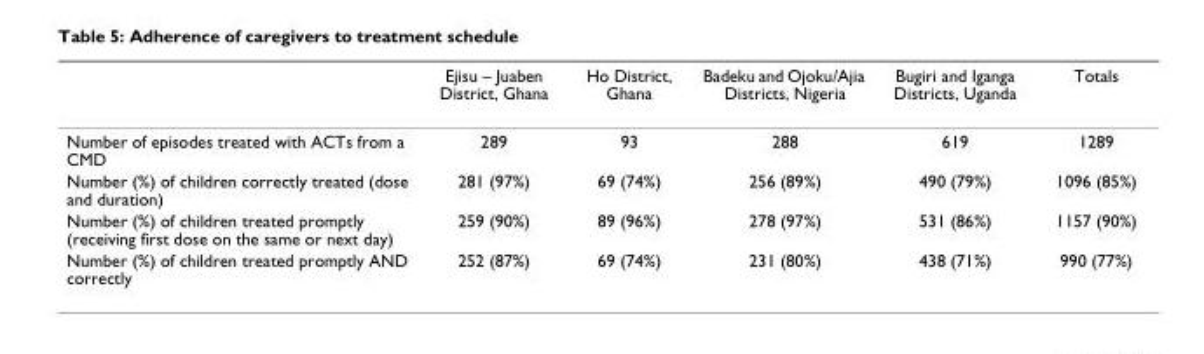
<table><thead><tr><td></td><td>Ejisu – Juaben District, Ghana</td><td>Ho District, Ghana</td><td>Badeku and Ojoku/Ajia Districts, Nigeria</td><td>Bugiri and Iganga Districts, Uganda</td><td>Totals</td></tr></thead><tbody><tr><td>Number of episodes treated with ACTs from a CMD</td><td>289</td><td>93</td><td>288</td><td>619</td><td>1289</td></tr><tr><td>Number (%) of children correctly treated (dose and duration)</td><td>281 (97%)</td><td>69 (74%)</td><td>256 (89%)</td><td>490 (79%)</td><td>1096 (85%)</td></tr><tr><td>Number (%) of children treated promptly (receiving first dose on the same or next day)</td><td>259 (90%)</td><td>89 (96%)</td><td>278 (97%)</td><td>531 (86%)</td><td>1157 (90%)</td></tr><tr><td>Number (%) of children treated promptly AND correctly</td><td>252 (87%)</td><td>69 (74%)</td><td>231 (80%)</td><td>438 (71%)</td><td>990 (77%)</td></tr></tbody></table>